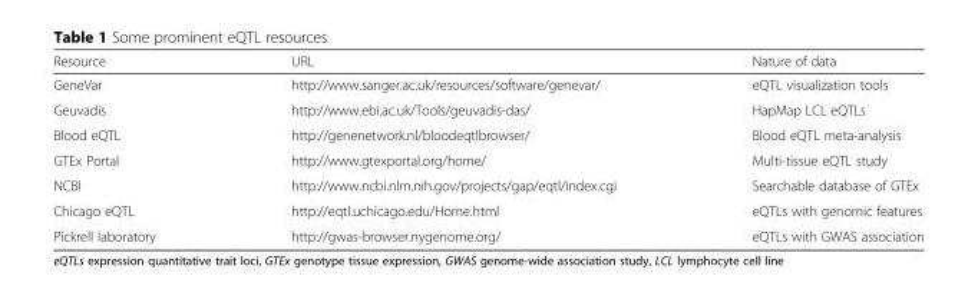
<table><thead><tr><td>Resource</td><td>URL</td><td>Nature of data</td></tr></thead><tbody><tr><td>GeneVar</td><td>http://www.sanger.ac.uk/resources/software/genevar/</td><td>eQTL visualization tools</td></tr><tr><td>Geuvadis</td><td>http://www.ebi.ac.uk/Tools/geuvadis-das/</td><td>HapMap LCL eQTLs</td></tr><tr><td>Blood eQTL</td><td>http://genenetwork.nl/bloodeqtlbrowser/</td><td>Blood eQTL meta-analysis</td></tr><tr><td>GTEx Portal</td><td>http://www.gtexportal.org/home/</td><td>Multi-tissue eQTL study</td></tr><tr><td>NCBI</td><td>http://www.ncbi.nlm.nih.gov/projects/gap/eqtl/index.cgi</td><td>Searchable database of GTEx</td></tr><tr><td>Chicago eQTL</td><td>http://eqtl.uchicago.edu/Home.html</td><td>eQTLs with genomic features</td></tr><tr><td>Pickrell laboratory</td><td>http://gwas-browser.nygenome.org/</td><td>eQTLs with GWAS association</td></tr></tbody></table>